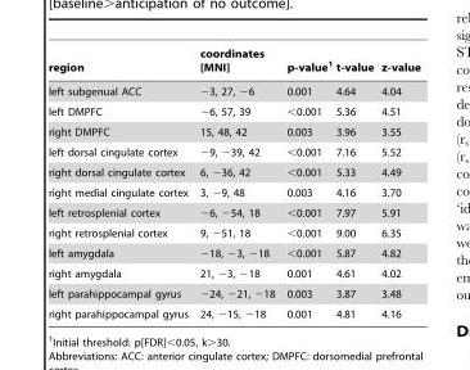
<table><thead><tr><td>region</td><td>coordinates [MNI]</td><td>p-value<sup>1</sup></td><td>t-value</td><td>z-value</td></tr></thead><tbody><tr><td>left subgenual ACC</td><td>−3, 27, −6</td><td>0.001</td><td>4.64</td><td>4.04</td></tr><tr><td>left DMPFC</td><td>−6, 57, 39</td><td>&lt;0.001</td><td>5.36</td><td>4.51</td></tr><tr><td>right DMPFC</td><td>15, 48, 42</td><td>0.003</td><td>3.96</td><td>3.55</td></tr><tr><td>left dorsal cingulate cortex</td><td>−9, −39, 42</td><td>&lt;0.001</td><td>7.16</td><td>5.52</td></tr><tr><td>right dorsal cingulate cortex</td><td>6, −36, 42</td><td>&lt;0.001</td><td>5.33</td><td>4.49</td></tr><tr><td>right medial cingulate cortex</td><td>3, −9, 48</td><td>0.003</td><td>4.16</td><td>3.70</td></tr><tr><td>left retrosplenial cortex</td><td>−6, −54, 18</td><td>&lt;0.001</td><td>7.97</td><td>5.91</td></tr><tr><td>right retrosplenial cortex</td><td>9, −51, 18</td><td>&lt;0.001</td><td>9.00</td><td>6.35</td></tr><tr><td>left amygdala</td><td>−18, −3, −18</td><td>&lt;0.001</td><td>5.87</td><td>4.82</td></tr><tr><td>right amygdala</td><td>21, −3, −18</td><td>0.001</td><td>4.61</td><td>4.02</td></tr><tr><td>left parahippocampal gyrus</td><td>−24, −21, −18</td><td>0.003</td><td>3.87</td><td>3.48</td></tr><tr><td>right parahippocampal gyrus</td><td>24, −15, −18</td><td>0.001</td><td>4.81</td><td>4.16</td></tr></tbody></table>